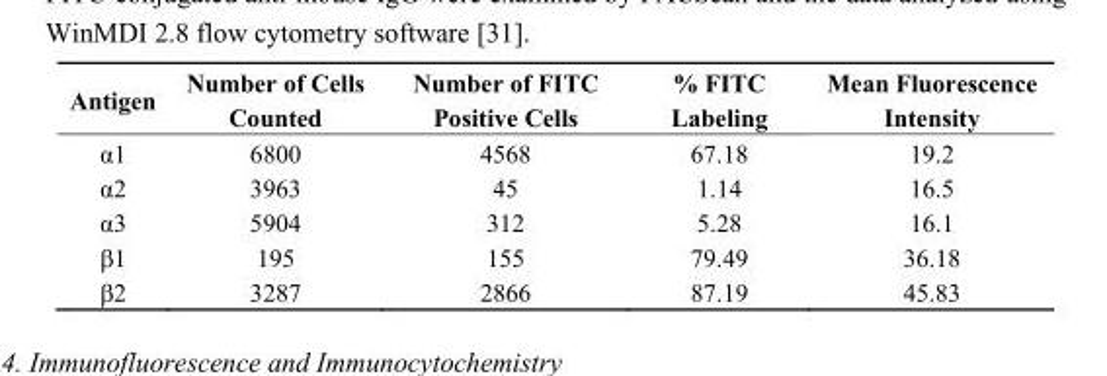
<table><thead><tr><td>Antigen</td><td>Number of Cells Counted</td><td>Number of FITC Positive Cells</td><td>% FITC Labeling</td><td>Mean Fluorescence Intensity</td></tr></thead><tbody><tr><td>α1</td><td>6800</td><td>4568</td><td>67.18</td><td>19.2</td></tr><tr><td>α2</td><td>3963</td><td>45</td><td>1.14</td><td>16.5</td></tr><tr><td>α3</td><td>5904</td><td>312</td><td>5.28</td><td>16.1</td></tr><tr><td>β1</td><td>195</td><td>155</td><td>79.49</td><td>36.18</td></tr><tr><td>β2</td><td>3287</td><td>2866</td><td>87.19</td><td>45.83</td></tr></tbody></table>